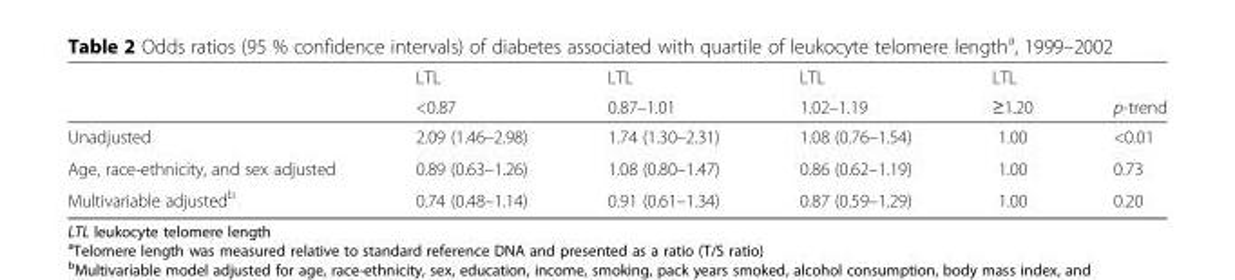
<table><thead><tr><td rowspan="2"></td><td rowspan="2">LTL &lt;0.87</td><td rowspan="2">LTL 0.87–1.01</td><td rowspan="2">LTL 1.02–1.19</td><td rowspan="2">LTL ≥1.20</td><td rowspan="2">p-trend</td></tr><tr></tr></thead><tbody><tr><td>Unadjusted</td><td>2.09 (1.46–2.98)</td><td>1.74 (1.30–2.31)</td><td>1.08 (0.76–1.54)</td><td>1.00</td><td>&lt;0.01</td></tr><tr><td>Age, race-ethnicity, and sex adjusted</td><td>0.89 (0.63–1.26)</td><td>1.08 (0.80–1.47)</td><td>0.86 (0.62–1.19)</td><td>1.00</td><td>0.73</td></tr><tr><td>Multivariable adjusted<sup>b</sup></td><td>0.74 (0.48–1.14)</td><td>0.91 (0.61–1.34)</td><td>0.87 (0.59–1.29)</td><td>1.00</td><td>0.20</td></tr></tbody></table>